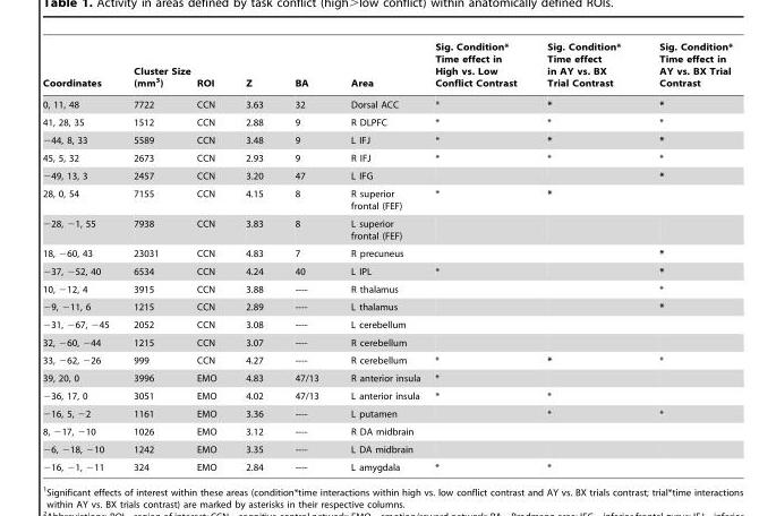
<table><thead><tr><td>Coordinates</td><td>Cluster Size (mm<sup>3</sup>)</td><td>ROI</td><td>Z</td><td>BA</td><td>Area</td><td>Sig. Condition* Time effect in High vs. Low Conflict Contrast</td><td>Sig. Condition* Time effect in AY vs. BX Trial Contrast</td><td>Sig. Condition* Time effect in AY vs. BX Trial Contrast</td></tr></thead><tbody><tr><td>0, 11, 48</td><td>7722</td><td>CCN</td><td>3.63</td><td>32</td><td>Dorsal ACC</td><td>*</td><td>*</td><td>*</td></tr><tr><td>41, 28, 35</td><td>1512</td><td>CCN</td><td>2.88</td><td>9</td><td>R DLPFC</td><td>*</td><td>*</td><td>*</td></tr><tr><td>−44, 8, 33</td><td>5589</td><td>CCN</td><td>3.48</td><td>9</td><td>L IFJ</td><td>*</td><td>*</td><td>*</td></tr><tr><td>45, 5, 32</td><td>2673</td><td>CCN</td><td>2.93</td><td>9</td><td>R IFJ</td><td>*</td><td>*</td><td>*</td></tr><tr><td>−49, 13, 3</td><td>2457</td><td>CCN</td><td>3.20</td><td>47</td><td>L IFG</td><td></td><td></td><td>*</td></tr><tr><td>28, 0, 54</td><td>7155</td><td>CCN</td><td>4.15</td><td>8</td><td>R superior frontal (FEF)</td><td>*</td><td>*</td><td></td></tr><tr><td>−28, −1, 55</td><td>7938</td><td>CCN</td><td>3.83</td><td>8</td><td>L superior frontal (FEF)</td><td></td><td></td><td></td></tr><tr><td>18, −60, 43</td><td>23031</td><td>CCN</td><td>4.83</td><td>7</td><td>R precuneus</td><td></td><td></td><td>*</td></tr><tr><td>−37, −52, 40</td><td>6534</td><td>CCN</td><td>4.24</td><td>40</td><td>L IPL</td><td>*</td><td></td><td>*</td></tr><tr><td>10, −12, 4</td><td>3915</td><td>CCN</td><td>3.88</td><td>----</td><td>R thalamus</td><td></td><td></td><td>*</td></tr><tr><td>−9, −11, 6</td><td>1215</td><td>CCN</td><td>2.89</td><td>----</td><td>L thalamus</td><td></td><td></td><td>*</td></tr><tr><td>−31, −67, −45</td><td>2052</td><td>CCN</td><td>3.08</td><td>----</td><td>L cerebellum</td><td></td><td></td><td></td></tr><tr><td>32, −60, −44</td><td>1215</td><td>CCN</td><td>3.07</td><td>----</td><td>R cerebellum</td><td></td><td></td><td></td></tr><tr><td>33, −62, −26</td><td>999</td><td>CCN</td><td>4.27</td><td>----</td><td>R cerebellum</td><td>*</td><td>*</td><td>*</td></tr><tr><td>39, 20, 0</td><td>3996</td><td>EMO</td><td>4.83</td><td>47/13</td><td>R anterior insula</td><td>*</td><td></td><td></td></tr><tr><td>−36, 17, 0</td><td>3051</td><td>EMO</td><td>4.02</td><td>47/13</td><td>L anterior insula</td><td>*</td><td>*</td><td></td></tr><tr><td>−16, 5, −2</td><td>1161</td><td>EMO</td><td>3.36</td><td>----</td><td>L putamen</td><td></td><td>*</td><td>*</td></tr><tr><td>8, −17, −10</td><td>1026</td><td>EMO</td><td>3.12</td><td>----</td><td>R DA midbrain</td><td></td><td></td><td></td></tr><tr><td>−6, −18, −10</td><td>1242</td><td>EMO</td><td>3.35</td><td>----</td><td>L DA midbrain</td><td></td><td></td><td></td></tr><tr><td>−16, −1, −11</td><td>324</td><td>EMO</td><td>2.84</td><td>----</td><td>L amygdala</td><td>*</td><td>*</td><td></td></tr></tbody></table>